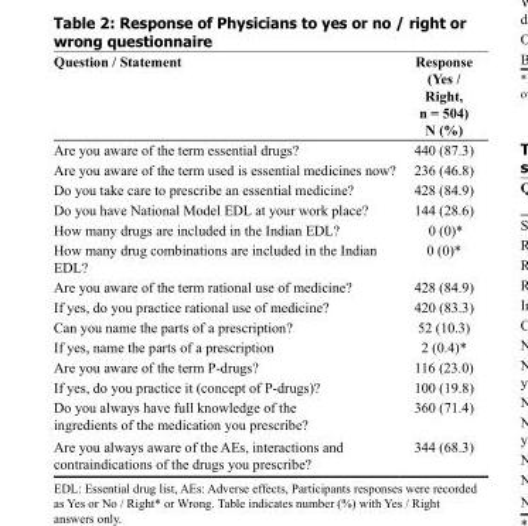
<table><thead><tr><td>Question / Statement</td><td>Response (Yes / Right, n = 504) N (%)</td></tr></thead><tbody><tr><td>Are you aware of the term essential drugs?</td><td>440 (87.3)</td></tr><tr><td>Are you aware of the term used is essential medicines now?</td><td>236 (46.8)</td></tr><tr><td>Do you take care to prescribe an essential medicine?</td><td>428 (84.9)</td></tr><tr><td>Do you have National Model EDL at your work place?</td><td>144 (28.6)</td></tr><tr><td>How many drugs are included in the Indian EDL?</td><td>0 (0)*</td></tr><tr><td>How many drug combinations are included in the Indian EDL?</td><td>0 (0)*</td></tr><tr><td>Are you aware of the term rational use of medicine?</td><td>428 (84.9)</td></tr><tr><td>If yes, do you practice rational use of medicine?</td><td>420 (83.3)</td></tr><tr><td>Can you name the parts of a prescription?</td><td>52 (10.3)</td></tr><tr><td>If yes, name the parts of a prescription</td><td>2 (0.4)*</td></tr><tr><td>Are you aware of the term P-drugs?</td><td>116 (23.0)</td></tr><tr><td>If yes, do you practice it (concept of P-drugs)?</td><td>100 (19.8)</td></tr><tr><td>Do you always have full knowledge of the ingredients of the medication you prescribe?</td><td>360 (71.4)</td></tr><tr><td>Are you always aware of the AEs, interactions and contraindications of the drugs you prescribe?</td><td>344 (68.3)</td></tr></tbody></table>